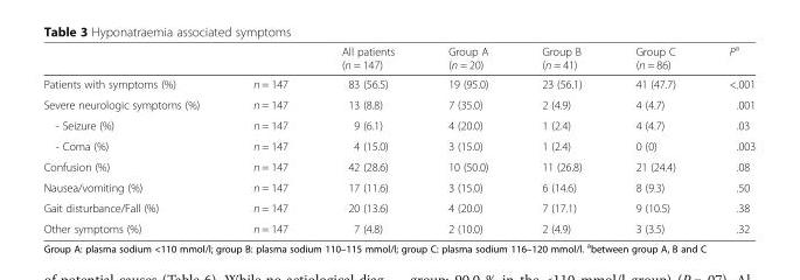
<table><thead><tr><td></td><td></td><td>All patients (n = 147)</td><td>Group A (n = 20)</td><td>Group B (n = 41)</td><td>Group C (n = 86)</td><td>P<sup>a</sup></td></tr></thead><tbody><tr><td>Patients with symptoms (%)</td><td>n = 147</td><td>83 (56.5)</td><td>19 (95.0)</td><td>23 (56.1)</td><td>41 (47.7)</td><td>&lt;.001</td></tr><tr><td>Severe neurologic symptoms (%)</td><td>n = 147</td><td>13 (8.8)</td><td>7 (35.0)</td><td>2 (4.9)</td><td>4 (4.7)</td><td>.001</td></tr><tr><td>- Seizure (%)</td><td>n = 147</td><td>9 (6.1)</td><td>4 (20.0)</td><td>1 (2.4)</td><td>4 (4.7)</td><td>.03</td></tr><tr><td>- Coma (%)</td><td>n = 147</td><td>4 (15.0)</td><td>3 (15.0)</td><td>1 (2.4)</td><td>0 (0)</td><td>.003</td></tr><tr><td>Confusion (%)</td><td>n = 147</td><td>42 (28.6)</td><td>10 (50.0)</td><td>11 (26.8)</td><td>21 (24.4)</td><td>.08</td></tr><tr><td>Nausea/vomiting (%)</td><td>n = 147</td><td>17 (11.6)</td><td>3 (15.0)</td><td>6 (14.6)</td><td>8 (9.3)</td><td>.50</td></tr><tr><td>Gait disturbance/Fall (%)</td><td>n = 147</td><td>20 (13.6)</td><td>4 (20.0)</td><td>7 (17.1)</td><td>9 (10.5)</td><td>.38</td></tr><tr><td>Other symptoms (%)</td><td>n = 147</td><td>7 (4.8)</td><td>2 (10.0)</td><td>2 (4.9)</td><td>3 (3.5)</td><td>.32</td></tr></tbody></table>